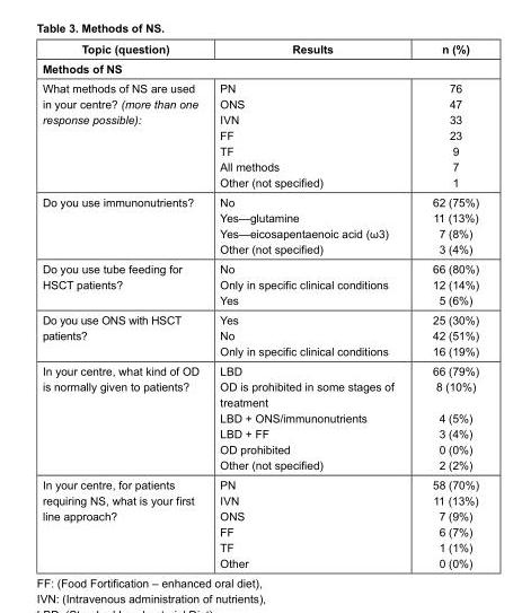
<table><thead><tr><td>Topic (question)</td><td>Results</td><td>n (%)</td></tr></thead><tbody><tr><td colspan="3">Methods of NS</td></tr><tr><td>What methods of NS are used in your centre? (more than one response possible):</td><td>PN ONS IVN FF TF All methods Other (not specified)</td><td>76 47 33 23 9 7 1</td></tr><tr><td>Do you use immunonutrients?</td><td>No Yes—glutamine Yes—eicosapentaenoic acid (ω3) Other (not specified)</td><td>62 (75%) 11 (13%) 7 (8%) 3 (4%)</td></tr><tr><td>Do you use tube feeding for HSCT patients?</td><td>No Only in specific clinical conditions Yes</td><td>66 (80%) 12 (14%) 5 (6%)</td></tr><tr><td>Do you use ONS with HSCT patients?</td><td>Yes No Only in specific clinical conditions</td><td>25 (30%) 42 (51%) 16 (19%)</td></tr><tr><td>In your centre, what kind of OD is normally given to patients?</td><td>LBD OD is prohibited in some stages of treatment LBD + ONS/immunonutrients LBD + FF OD prohibited Other (not specified)</td><td>66 (79%) 8 (10%) 4 (5%) 3 (4%) 0 (0%) 2 (2%)</td></tr><tr><td>In your centre, for patients requiring NS, what is your first line approach?</td><td>PN IVN ONS FF TF Other</td><td>58 (70%) 11 (13%) 7 (9%) 6 (7%) 1 (1%) 0 (0%)</td></tr></tbody></table>